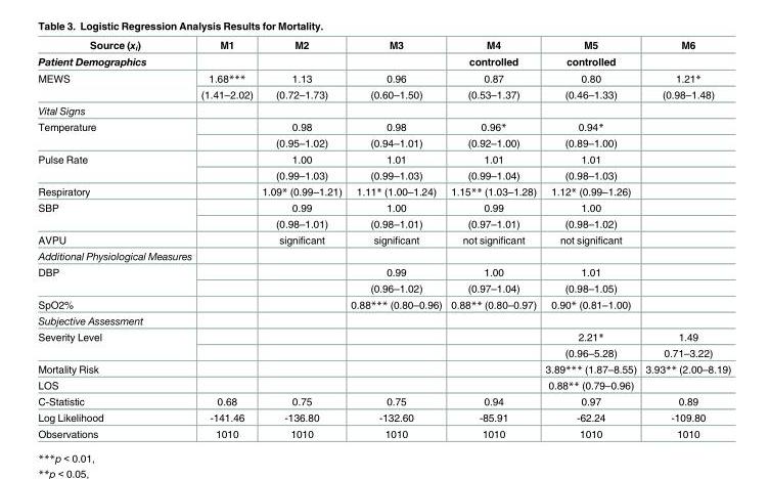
<table><thead><tr><td rowspan="2">Source (x<sub>i</sub>) Patient Demographics</td><td rowspan="2">M1</td><td rowspan="2">M2</td><td rowspan="2">M3</td><td rowspan="2">M4 controlled</td><td rowspan="2">M5 controlled</td><td rowspan="2">M6</td></tr><tr></tr></thead><tbody><tr><td rowspan="2">MEWS</td><td>1.68***</td><td>1.13</td><td>0.96</td><td>0.87</td><td>0.80</td><td>1.21*</td></tr><tr><td>(1.41–2.02)</td><td>(0.72–1.73)</td><td>(0.60–1.50)</td><td>(0.53–1.37)</td><td>(0.46–1.33)</td><td>(0.98–1.48)</td></tr><tr><td colspan="7">Vital Signs</td></tr><tr><td rowspan="2">Temperature</td><td></td><td>0.98</td><td>0.98</td><td>0.96*</td><td>0.94*</td><td></td></tr><tr><td></td><td>(0.95–1.02)</td><td>(0.94–1.01)</td><td>(0.92–1.00)</td><td>(0.89–1.00)</td><td></td></tr><tr><td rowspan="2">Pulse Rate</td><td></td><td>1.00</td><td>1.01</td><td>1.01</td><td>1.01</td><td></td></tr><tr><td></td><td>(0.99–1.03)</td><td>(0.99–1.03)</td><td>(0.99–1.04)</td><td>(0.98–1.03)</td><td></td></tr><tr><td>Respiratory</td><td></td><td>1.09* (0.99–1.21)</td><td>1.11* (1.00–1.24)</td><td>1.15** (1.03–1.28)</td><td>1.12* (0.99–1.26)</td><td></td></tr><tr><td rowspan="2">SBP</td><td></td><td>0.99</td><td>1.00</td><td>0.99</td><td>1.00</td><td></td></tr><tr><td></td><td>(0.98–1.01)</td><td>(0.98–1.01)</td><td>(0.97–1.01)</td><td>(0.98–1.02)</td><td></td></tr><tr><td>AVPU</td><td></td><td>significant</td><td>significant</td><td>not significant</td><td>not significant</td><td></td></tr><tr><td colspan="7">Additional Physiological Measures</td></tr><tr><td rowspan="2">DBP</td><td></td><td></td><td>0.99</td><td>1.00</td><td>1.01</td><td></td></tr><tr><td></td><td></td><td>(0.96–1.02)</td><td>(0.97–1.04)</td><td>(0.98–1.05)</td><td></td></tr><tr><td>SpO2%</td><td></td><td></td><td>0.88*** (0.80–0.96)</td><td>0.88** (0.80–0.97)</td><td>0.90* (0.81–1.00)</td><td></td></tr><tr><td colspan="7">Subjective Assessment</td></tr><tr><td rowspan="2">Severity Level</td><td></td><td></td><td></td><td></td><td>2.21*</td><td>1.49</td></tr><tr><td></td><td></td><td></td><td></td><td>(0.96–5.28)</td><td>0.71–3.22)</td></tr><tr><td>Mortality Risk</td><td></td><td></td><td></td><td></td><td>3.89*** (1.87–8.55)</td><td>3.93** (2.00–8.19)</td></tr><tr><td>LOS</td><td></td><td></td><td></td><td></td><td>0.88** (0.79–0.96)</td><td></td></tr><tr><td>C-Statistic</td><td>0.68</td><td>0.75</td><td>0.75</td><td>0.94</td><td>0.97</td><td>0.89</td></tr><tr><td>Log Likelihood</td><td>-141.46</td><td>-136.80</td><td>-132.60</td><td>-85.91</td><td>-62.24</td><td>-109.80</td></tr><tr><td>Observations</td><td>1010</td><td>1010</td><td>1010</td><td>1010</td><td>1010</td><td>1010</td></tr></tbody></table>